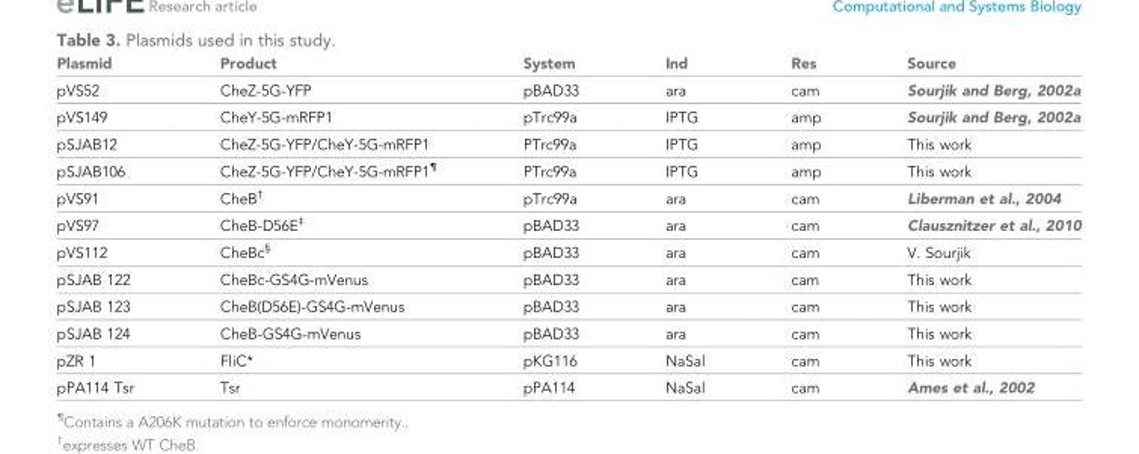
<table><thead><tr><td>Plasmid</td><td>Product</td><td>System</td><td>Ind</td><td>Res</td><td>Source</td></tr></thead><tbody><tr><td>pVS52</td><td>CheZ-5G-YFP</td><td>pBAD33</td><td>ara</td><td>cam</td><td>Sourjik and Berg, 2002a</td></tr><tr><td>pVS149</td><td>CheY-5G-mRFP1</td><td>pTrc99a</td><td>IPTG</td><td>amp</td><td>Sourjik and Berg, 2002a</td></tr><tr><td>pSJAB12</td><td>CheZ-5G-YFP/CheY-5G-mRFP1</td><td>PTrc99a</td><td>IPTG</td><td>amp</td><td>This work</td></tr><tr><td>pSJAB106</td><td>CheZ-5G-YFP/CheY-5G-mRFP1<sup>¶</sup></td><td>PTrc99a</td><td>IPTG</td><td>amp</td><td>This work</td></tr><tr><td>pVS91</td><td>CheB<sup>†</sup></td><td>pTrc99a</td><td>ara</td><td>cam</td><td>Liberman et al., 2004</td></tr><tr><td>pVS97</td><td>CheB-D56E<sup>‡</sup></td><td>pBAD33</td><td>ara</td><td>cam</td><td>Clausznitzer et al., 2010</td></tr><tr><td>pVS112</td><td>CheBc<sup>§</sup></td><td>pBAD33</td><td>ara</td><td>cam</td><td>V. Sourjik</td></tr><tr><td>pSJAB 122</td><td>CheBc-GS4G-mVenus</td><td>pBAD33</td><td>ara</td><td>cam</td><td>This work</td></tr><tr><td>pSJAB 123</td><td>CheB(D56E)-GS4G-mVenus</td><td>pBAD33</td><td>ara</td><td>cam</td><td>This work</td></tr><tr><td>pSJAB 124</td><td>CheB-GS4G-mVenus</td><td>pBAD33</td><td>ara</td><td>cam</td><td>This work</td></tr><tr><td>pZR 1</td><td>FliC*</td><td>pKG116</td><td>NaSal</td><td>cam</td><td>This work</td></tr><tr><td>pPA114 Tsr</td><td>Tsr</td><td>pPA114</td><td>NaSal</td><td>cam</td><td>Ames et al., 2002</td></tr></tbody></table>